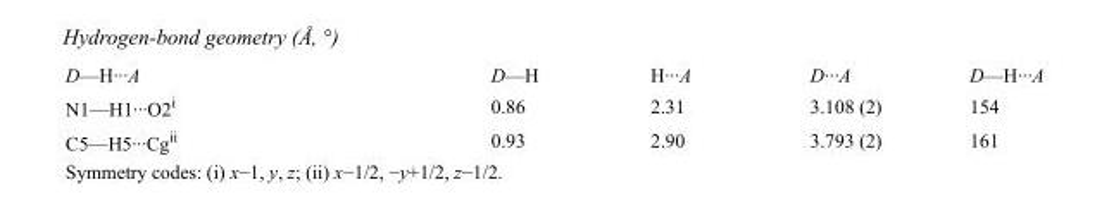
<table><tbody><tr><td>D—H···A</td><td>D—H</td><td>H···A</td><td>D···A</td><td>D—H···A</td></tr><tr><td>N1—H1···O2<sup>i</sup></td><td>0.86</td><td>2.31</td><td>3.108 (2)</td><td>154</td></tr><tr><td>C5—H5···Cg<sup>ii</sup></td><td>0.93</td><td>2.90</td><td>3.793 (2)</td><td>161</td></tr></tbody></table>